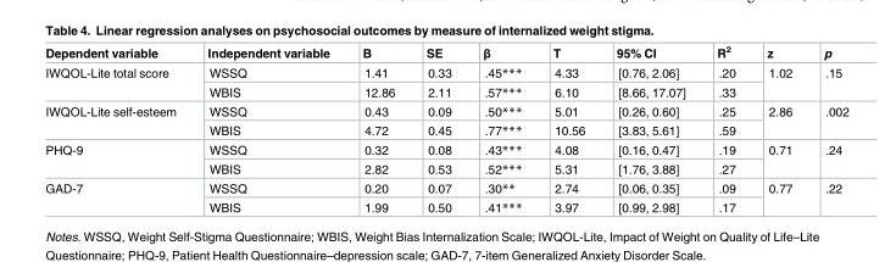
<table><thead><tr><td>Dependent variable</td><td>Independent variable</td><td>B</td><td>SE</td><td>β</td><td>T</td><td>95% CI</td><td>R<sup>2</sup></td><td>z</td><td>p</td></tr></thead><tbody><tr><td rowspan="2">IWQOL-Lite total score</td><td>WSSQ</td><td>1.41</td><td>0.33</td><td>.45***</td><td>4.33</td><td>[0.76, 2.06]</td><td>.20</td><td rowspan="2">1.02</td><td rowspan="2">.15</td></tr><tr><td>WBIS</td><td>12.86</td><td>2.11</td><td>.57***</td><td>6.10</td><td>[8.66, 17.07]</td><td>.33</td></tr><tr><td rowspan="2">IWQOL-Lite self-esteem</td><td>WSSQ</td><td>0.43</td><td>0.09</td><td>.50***</td><td>5.01</td><td>[0.26, 0.60]</td><td>.25</td><td rowspan="2">2.86</td><td rowspan="2">.002</td></tr><tr><td>WBIS</td><td>4.72</td><td>0.45</td><td>.77***</td><td>10.56</td><td>[3.83, 5.61]</td><td>.59</td></tr><tr><td rowspan="2">PHQ-9</td><td>WSSQ</td><td>0.32</td><td>0.08</td><td>.43***</td><td>4.08</td><td>[0.16, 0.47]</td><td>.19</td><td rowspan="2">0.71</td><td rowspan="2">.24</td></tr><tr><td>WBIS</td><td>2.82</td><td>0.53</td><td>.52***</td><td>5.31</td><td>[1.76, 3.88]</td><td>.27</td></tr><tr><td rowspan="2">GAD-7</td><td>WSSQ</td><td>0.20</td><td>0.07</td><td>.30**</td><td>2.74</td><td>[0.06, 0.35]</td><td>.09</td><td rowspan="2">0.77</td><td rowspan="2">.22</td></tr><tr><td>WBIS</td><td>1.99</td><td>0.50</td><td>.41***</td><td>3.97</td><td>[0.99, 2.98]</td><td>.17</td></tr></tbody></table>